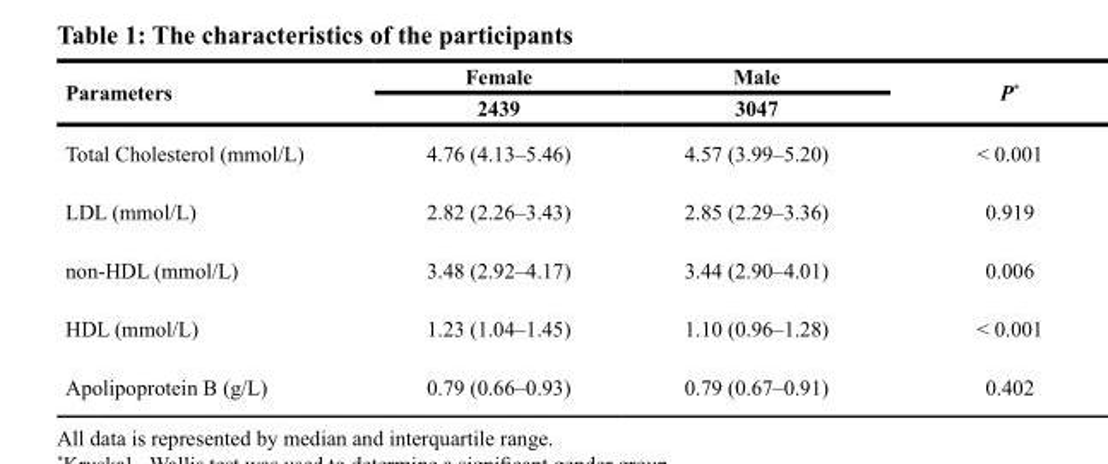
<table><thead><tr><td rowspan="2">Parameters</td><td rowspan="2">Female 2439</td><td rowspan="2">Male 3047</td><td rowspan="2">P*</td></tr><tr></tr></thead><tbody><tr><td>Total Cholesterol (mmol/L)</td><td>4.76 (4.13–5.46)</td><td>4.57 (3.99–5.20)</td><td>&lt; 0.001</td></tr><tr><td>LDL (mmol/L)</td><td>2.82 (2.26–3.43)</td><td>2.85 (2.29–3.36)</td><td>0.919</td></tr><tr><td>non-HDL (mmol/L)</td><td>3.48 (2.92–4.17)</td><td>3.44 (2.90–4.01)</td><td>0.006</td></tr><tr><td>HDL (mmol/L)</td><td>1.23 (1.04–1.45)</td><td>1.10 (0.96–1.28)</td><td>&lt; 0.001</td></tr><tr><td>Apolipoprotein B (g/L)</td><td>0.79 (0.66–0.93)</td><td>0.79 (0.67–0.91)</td><td>0.402</td></tr></tbody></table>